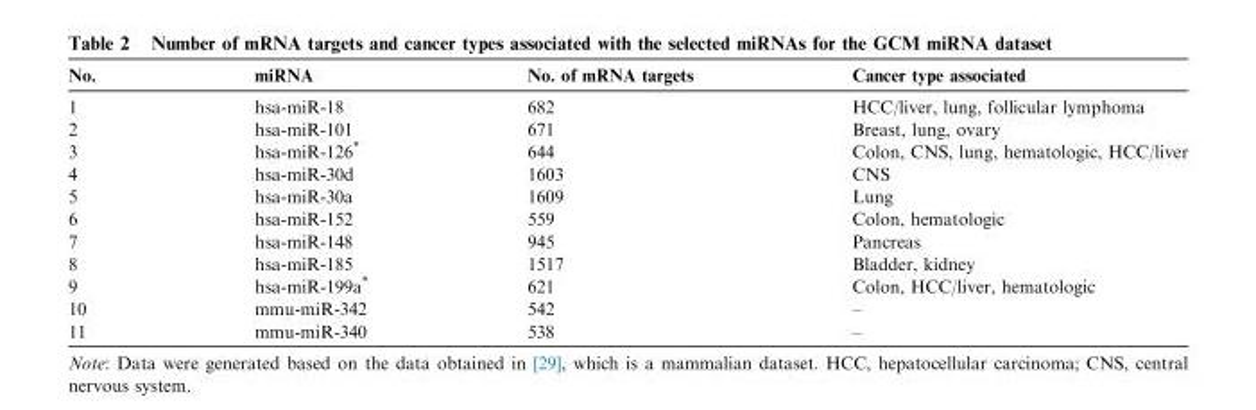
<table><thead><tr><td>No.</td><td>miRNA</td><td>No. of mRNA targets</td><td>Cancer type associated</td></tr></thead><tbody><tr><td>1</td><td>hsa-miR-18</td><td>682</td><td>HCC/liver, lung, follicular lymphoma</td></tr><tr><td>2</td><td>hsa-miR-101</td><td>671</td><td>Breast, lung, ovary</td></tr><tr><td>3</td><td>hsa-miR-126*</td><td>644</td><td>Colon, CNS, lung, hematologic, HCC/liver</td></tr><tr><td>4</td><td>hsa-miR-30d</td><td>1603</td><td>CNS</td></tr><tr><td>5</td><td>hsa-miR-30a</td><td>1609</td><td>Lung</td></tr><tr><td>6</td><td>hsa-miR-152</td><td>559</td><td>Colon, hematologic</td></tr><tr><td>7</td><td>hsa-miR-148</td><td>945</td><td>Pancreas</td></tr><tr><td>8</td><td>hsa-miR-185</td><td>1517</td><td>Bladder, kidney</td></tr><tr><td>9</td><td>hsa-miR-199a*</td><td>621</td><td>Colon, HCC/liver, hematologic</td></tr><tr><td>10</td><td>mmu-miR-342</td><td>542</td><td>–</td></tr><tr><td>11</td><td>mmu-miR-340</td><td>538</td><td>–</td></tr></tbody></table>